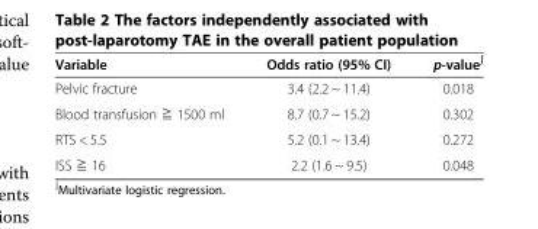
<table><thead><tr><td>Variable</td><td>Odds ratio (95% CI)</td><td>p-value<sup>∫</sup></td></tr></thead><tbody><tr><td>Pelvic fracture</td><td>3.4 (2.2 ~ 11.4)</td><td>0.018</td></tr><tr><td>Blood transfusion ≧ 1500 ml</td><td>8.7 (0.7 ~ 15.2)</td><td>0.302</td></tr><tr><td>RTS &lt; 5.5</td><td>5.2 (0.1 ~ 13.4)</td><td>0.272</td></tr><tr><td>ISS ≧ 16</td><td>2.2 (1.6 ~ 9.5)</td><td>0.048</td></tr></tbody></table>